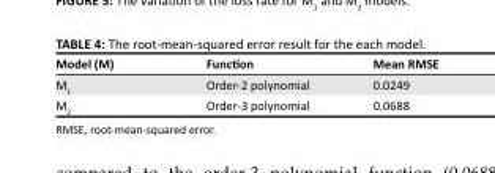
<table><thead><tr><td>Model (M)</td><td>Function</td><td>Mean RMSE</td></tr></thead><tbody><tr><td>M<sub>1</sub></td><td>Order-2 polynomial</td><td>0.0249</td></tr><tr><td>M<sub>2</sub></td><td>Order-3 polynomial</td><td>0.0688</td></tr></tbody></table>